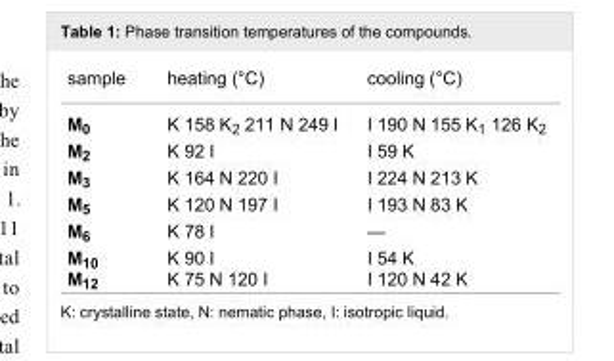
<table><tbody><tr><td>sample</td><td>heating (°C)</td><td>cooling (°C)</td></tr><tr><td>M<sub>0</sub></td><td>K 158 K<sub>2</sub> 211 N 249 I</td><td>I 190 N 155 K<sub>1</sub> 126 K<sub>2</sub></td></tr><tr><td>M<sub>2</sub></td><td>K 92 I</td><td>I 59 K</td></tr><tr><td>M<sub>3</sub></td><td>K 164 N 220 I</td><td>I 224 N 213 K</td></tr><tr><td>M<sub>5</sub></td><td>K 120 N 197 I</td><td>I 193 N 83 K</td></tr><tr><td>M<sub>6</sub></td><td>K 78 I</td><td>—</td></tr><tr><td>M<sub>10</sub> M<sub>12</sub></td><td>K 90 I K 75 N 120 I</td><td>I 54 K I 120 N 42 K</td></tr></tbody></table>